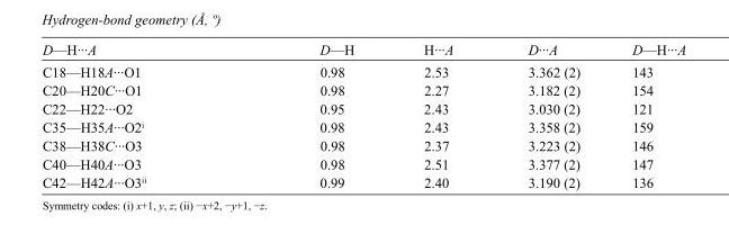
<table><tbody><tr><td>D—H···A</td><td>D—H</td><td>H···A</td><td>D···A</td><td>D—H···A</td></tr><tr><td>C18—H18A···O1</td><td>0.98</td><td>2.53</td><td>3.362 (2)</td><td>143</td></tr><tr><td>C20—H20C···O1</td><td>0.98</td><td>2.27</td><td>3.182 (2)</td><td>154</td></tr><tr><td>C22—H22···O2</td><td>0.95</td><td>2.43</td><td>3.030 (2)</td><td>121</td></tr><tr><td>C35—H35A···O2<sup>i</sup></td><td>0.98</td><td>2.43</td><td>3.358 (2)</td><td>159</td></tr><tr><td>C38—H38C···O3</td><td>0.98</td><td>2.37</td><td>3.223 (2)</td><td>146</td></tr><tr><td>C40—H40A···O3</td><td>0.98</td><td>2.51</td><td>3.377 (2)</td><td>147</td></tr><tr><td>C42—H42A···O3<sup>ii</sup></td><td>0.99</td><td>2.40</td><td>3.190 (2)</td><td>136</td></tr></tbody></table>